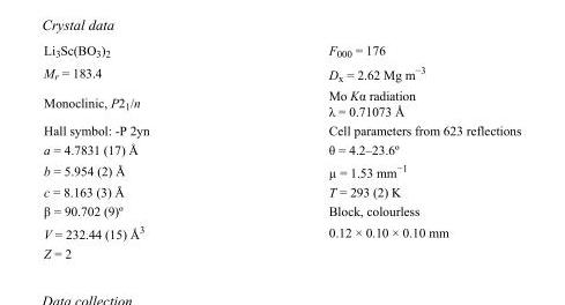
<table><tbody><tr><td>Li<sub>3</sub>Sc(BO<sub>3</sub>)<sub>2</sub></td><td>F<sub>000</sub> = 176</td></tr><tr><td>M<sub>r</sub> = 183.4</td><td>D<sub>x</sub> = 2.62 Mg m<sup>−3</sup></td></tr><tr><td>Monoclinic, P2<sub>1</sub>/n</td><td>Mo Kα radiation λ = 0.71073 Å</td></tr><tr><td>Hall symbol: -P 2yn</td><td>Cell parameters from 623 reflections</td></tr><tr><td>a = 4.7831 (17) Å</td><td>θ = 4.2–23.6º</td></tr><tr><td>b = 5.954 (2) Å</td><td>µ = 1.53 mm<sup>−1</sup></td></tr><tr><td>c = 8.163 (3) Å</td><td>T = 293 (2) K</td></tr><tr><td>β = 90.702 (9)º</td><td>Block, colourless</td></tr><tr><td>V = 232.44 (15) Å<sup>3</sup></td><td>0.12 × 0.10 × 0.10 mm</td></tr><tr><td>Z = 2</td><td></td></tr></tbody></table>